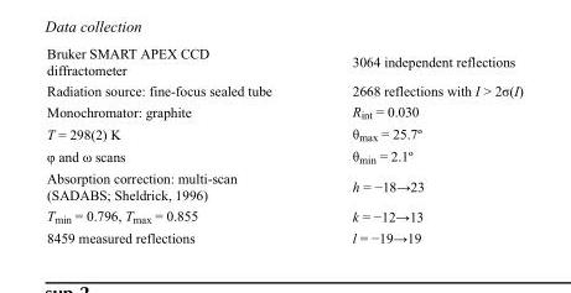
<table><tbody><tr><td>Bruker SMART APEX CCD diffractometer</td><td>3064 independent reflections</td></tr><tr><td>Radiation source: fine-focus sealed tube</td><td>2668 reflections with I &gt; 2σ(I)</td></tr><tr><td>Monochromator: graphite</td><td>R<sub>int</sub> = 0.030</td></tr><tr><td>T = 298(2) K</td><td>θ<sub>max</sub> = 25.7º</td></tr><tr><td>φ and ω scans</td><td>θ<sub>min</sub> = 2.1º</td></tr><tr><td>Absorption correction: multi-scan (SADABS; Sheldrick, 1996)</td><td>h = −18→23</td></tr><tr><td>T<sub>min</sub> = 0.796, T<sub>max</sub> = 0.855</td><td>k = −12→13</td></tr><tr><td>8459 measured reflections</td><td>l = −19→19</td></tr></tbody></table>